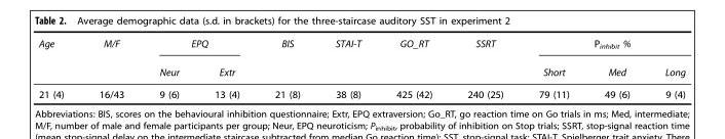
<table><thead><tr><td rowspan="2">Age</td><td rowspan="2">M/F</td><td colspan="2">EPQ</td><td rowspan="2">BIS</td><td rowspan="2">STAI-T</td><td rowspan="2">GO_RT</td><td rowspan="2">SSRT</td><td colspan="3">P<sub>inhibit</sub> %</td></tr><tr><td>Neur</td><td>Extr</td><td>Short</td><td>Med</td><td>Long</td></tr></thead><tbody><tr><td>21 (4)</td><td>16/43</td><td>9 (6)</td><td>13 (4)</td><td>21 (8)</td><td>38 (8)</td><td>425 (42)</td><td>240 (25)</td><td>79 (11)</td><td>49 (6)</td><td>9 (4)</td></tr></tbody></table>